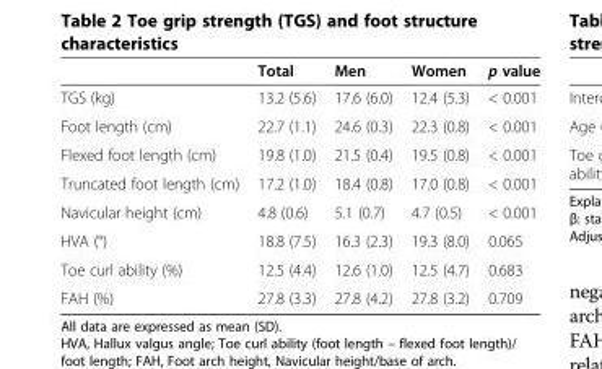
<table><thead><tr><td></td><td>Total</td><td>Men</td><td>Women</td><td>p value</td></tr></thead><tbody><tr><td>TGS (kg)</td><td>13.2 (5.6)</td><td>17.6 (6.0)</td><td>12.4 (5.3)</td><td>&lt; 0.001</td></tr><tr><td>Foot length (cm)</td><td>22.7 (1.1)</td><td>24.6 (0.3)</td><td>22.3 (0.8)</td><td>&lt; 0.001</td></tr><tr><td>Flexed foot length (cm)</td><td>19.8 (1.0)</td><td>21.5 (0.4)</td><td>19.5 (0.8)</td><td>&lt; 0.001</td></tr><tr><td>Truncated foot length (cm)</td><td>17.2 (1.0)</td><td>18.4 (0.8)</td><td>17.0 (0.8)</td><td>&lt; 0.001</td></tr><tr><td>Navicular height (cm)</td><td>4.8 (0.6)</td><td>5.1 (0.7)</td><td>4.7 (0.5)</td><td>&lt; 0.001</td></tr><tr><td>HVA (°)</td><td>18.8 (7.5)</td><td>16.3 (2.3)</td><td>19.3 (8.0)</td><td>0.065</td></tr><tr><td>Toe curl ability (%)</td><td>12.5 (4.4)</td><td>12.6 (1.0)</td><td>12.5 (4.7)</td><td>0.683</td></tr><tr><td>FAH (%)</td><td>27.8 (3.3)</td><td>27.8 (4.2)</td><td>27.8 (3.2)</td><td>0.709</td></tr></tbody></table>